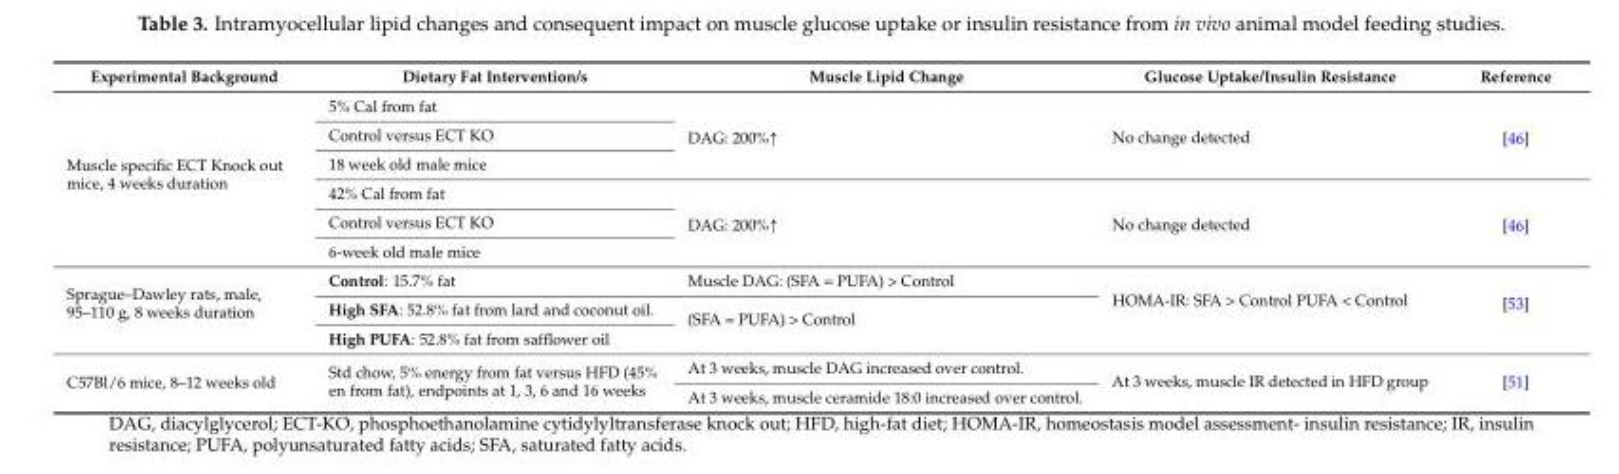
<table><thead><tr><td>Experimental Background</td><td>Dietary Fat Intervention/s</td><td>Muscle Lipid Change</td><td>Glucose Uptake/Insulin Resistance</td><td>Reference</td></tr></thead><tbody><tr><td rowspan="6">Muscle specific ECT Knock out mice, 4 weeks duration</td><td>5% Cal from fat</td><td rowspan="3">DAG: 200%↑</td><td rowspan="3">No change detected</td><td rowspan="3">[46]</td></tr><tr><td>Control versus ECT KO</td></tr><tr><td>18 week old male mice</td></tr><tr><td>42% Cal from fat</td><td rowspan="3">DAG: 200%↑</td><td rowspan="3">No change detected</td><td rowspan="3">[46]</td></tr><tr><td>Control versus ECT KO</td></tr><tr><td>6-week old male mice</td></tr><tr><td rowspan="3">Sprague–Dawley rats, male, 95–110 g, 8 weeks duration</td><td>Control: 15.7% fat</td><td>Muscle DAG: (SFA = PUFA) &gt; Control</td><td rowspan="3">HOMA-IR: SFA &gt; Control PUFA &lt; Control</td><td rowspan="3">[53]</td></tr><tr><td>High SFA: 52.8% fat from lard and coconut oil.</td><td rowspan="2">(SFA = PUFA) &gt; Control</td></tr><tr><td>High PUFA: 52.8% fat from safflower oil</td></tr><tr><td rowspan="2">C57Bl/6 mice, 8–12 weeks old</td><td rowspan="2">Std chow, 5% energy from fat versus HFD (45% en from fat), endpoints at 1, 3, 6 and 16 weeks</td><td>At 3 weeks, muscle DAG increased over control.</td><td rowspan="2">At 3 weeks, muscle IR detected in HFD group</td><td rowspan="2">[51]</td></tr><tr><td>At 3 weeks, muscle ceramide 18:0 increased over control.</td></tr></tbody></table>